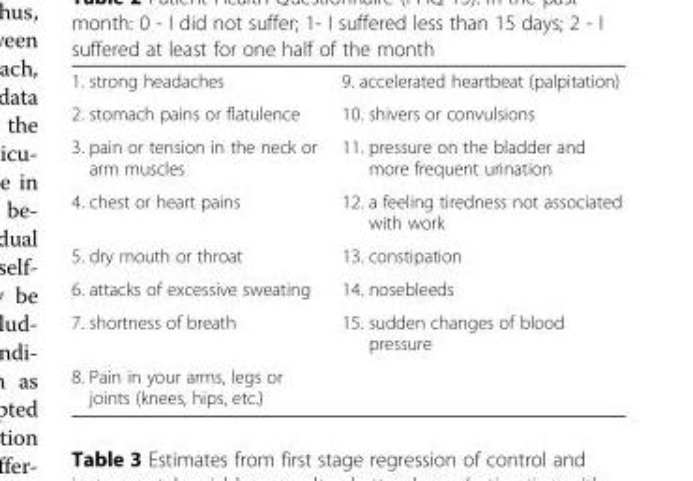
<table><tbody><tr><td>1. strong headaches</td><td>9. accelerated heartbeat (palpitation)</td></tr><tr><td>2. stomach pains or flatulence</td><td>10. shivers or convulsions</td></tr><tr><td>3. pain or tension in the neck or arm muscles</td><td>11. pressure on the bladder and more frequent urination</td></tr><tr><td>4. chest or heart pains</td><td>12. a feeling tiredness not associated with work</td></tr><tr><td>5. dry mouth or throat</td><td>13. constipation</td></tr><tr><td>6. attacks of excessive sweating</td><td>14. nosebleeds</td></tr><tr><td>7. shortness of breath</td><td>15. sudden changes of blood pressure</td></tr><tr><td>8. Pain in your arms, legs or joints (knees, hips, etc.)</td><td></td></tr></tbody></table>